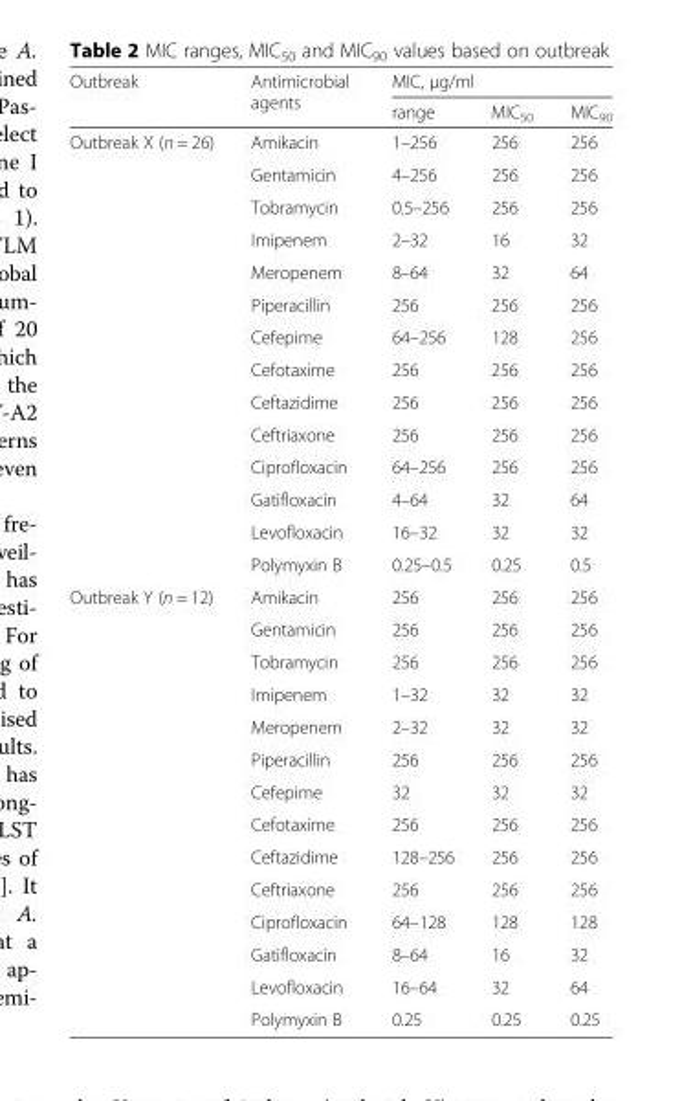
<table><thead><tr><td rowspan="2">Outbreak</td><td rowspan="2">Antimicrobial agents</td><td colspan="3">MIC, μg/ml</td></tr><tr><td>range</td><td>MIC<sub>50</sub></td><td>MIC<sub>90</sub></td></tr></thead><tbody><tr><td rowspan="14">Outbreak X (n = 26)</td><td>Amikacin</td><td>1–256</td><td>256</td><td>256</td></tr><tr><td>Gentamicin</td><td>4–256</td><td>256</td><td>256</td></tr><tr><td>Tobramycin</td><td>0.5–256</td><td>256</td><td>256</td></tr><tr><td>Imipenem</td><td>2–32</td><td>16</td><td>32</td></tr><tr><td>Meropenem</td><td>8–64</td><td>32</td><td>64</td></tr><tr><td>Piperacillin</td><td>256</td><td>256</td><td>256</td></tr><tr><td>Cefepime</td><td>64–256</td><td>128</td><td>256</td></tr><tr><td>Cefotaxime</td><td>256</td><td>256</td><td>256</td></tr><tr><td>Ceftazidime</td><td>256</td><td>256</td><td>256</td></tr><tr><td>Ceftriaxone</td><td>256</td><td>256</td><td>256</td></tr><tr><td>Ciprofloxacin</td><td>64–256</td><td>256</td><td>256</td></tr><tr><td>Gatifloxacin</td><td>4–64</td><td>32</td><td>64</td></tr><tr><td>Levofloxacin</td><td>16–32</td><td>32</td><td>32</td></tr><tr><td>Polymyxin B</td><td>0.25–0.5</td><td>0.25</td><td>0.5</td></tr><tr><td rowspan="14">Outbreak Y (n = 12)</td><td>Amikacin</td><td>256</td><td>256</td><td>256</td></tr><tr><td>Gentamicin</td><td>256</td><td>256</td><td>256</td></tr><tr><td>Tobramycin</td><td>256</td><td>256</td><td>256</td></tr><tr><td>Imipenem</td><td>1–32</td><td>32</td><td>32</td></tr><tr><td>Meropenem</td><td>2–32</td><td>32</td><td>32</td></tr><tr><td>Piperacillin</td><td>256</td><td>256</td><td>256</td></tr><tr><td>Cefepime</td><td>32</td><td>32</td><td>32</td></tr><tr><td>Cefotaxime</td><td>256</td><td>256</td><td>256</td></tr><tr><td>Ceftazidime</td><td>128–256</td><td>256</td><td>256</td></tr><tr><td>Ceftriaxone</td><td>256</td><td>256</td><td>256</td></tr><tr><td>Ciprofloxacin</td><td>64–128</td><td>128</td><td>128</td></tr><tr><td>Gatifloxacin</td><td>8–64</td><td>16</td><td>32</td></tr><tr><td>Levofloxacin</td><td>16–64</td><td>32</td><td>64</td></tr><tr><td>Polymyxin B</td><td>0.25</td><td>0.25</td><td>0.25</td></tr></tbody></table>